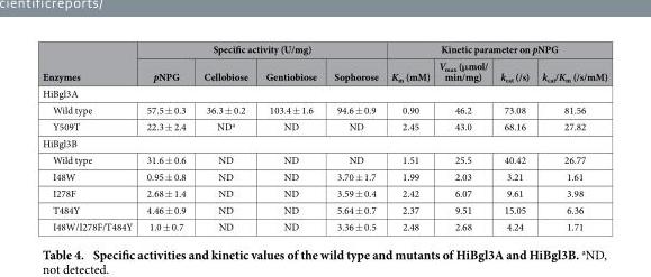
<table><thead><tr><td rowspan="2">Enzymes</td><td colspan="4">Specific activity (U/mg)</td><td colspan="4">Kinetic parameter on pNPG</td></tr><tr><td>pNPG</td><td>Cellobiose</td><td>Gentiobiose</td><td>Sophorose</td><td>K<sub>m</sub> (mM)</td><td>V<sub>max</sub> (μmol/ min/mg)</td><td>k<sub>cat</sub> (/s)</td><td>k<sub>cat</sub>/K<sub>m</sub> (/s/mM)</td></tr></thead><tbody><tr><td colspan="9">HiBgl3A</td></tr><tr><td>Wild type</td><td>57.5 ± 0.3</td><td>36.3 ± 0.2</td><td>103.4 ± 1.6</td><td>94.6 ± 0.9</td><td>0.90</td><td>46.2</td><td>73.08</td><td>81.56</td></tr><tr><td>Y509T</td><td>22.3 ± 2.4</td><td>ND<sup>a</sup></td><td>ND</td><td>ND</td><td>2.45</td><td>43.0</td><td>68.16</td><td>27.82</td></tr><tr><td colspan="9">HiBgl3B</td></tr><tr><td>Wild type</td><td>31.6 ± 0.6</td><td>ND</td><td>ND</td><td>ND</td><td>1.51</td><td>25.5</td><td>40.42</td><td>26.77</td></tr><tr><td>I48W</td><td>0.95 ± 0.8</td><td>ND</td><td>ND</td><td>3.70 ± 1.7</td><td>1.99</td><td>2.03</td><td>3.21</td><td>1.61</td></tr><tr><td>I278F</td><td>2.68 ± 1.4</td><td>ND</td><td>ND</td><td>3.59 ± 0.4</td><td>2.42</td><td>6.07</td><td>9.61</td><td>3.98</td></tr><tr><td>T484Y</td><td>4.46 ± 0.9</td><td>ND</td><td>ND</td><td>5.64 ± 0.7</td><td>2.37</td><td>9.51</td><td>15.05</td><td>6.36</td></tr><tr><td>I48W/I278F/T484Y</td><td>1.0 ± 0.7</td><td>ND</td><td>ND</td><td>3.36 ± 0.5</td><td>2.48</td><td>2.68</td><td>4.24</td><td>1.71</td></tr></tbody></table>